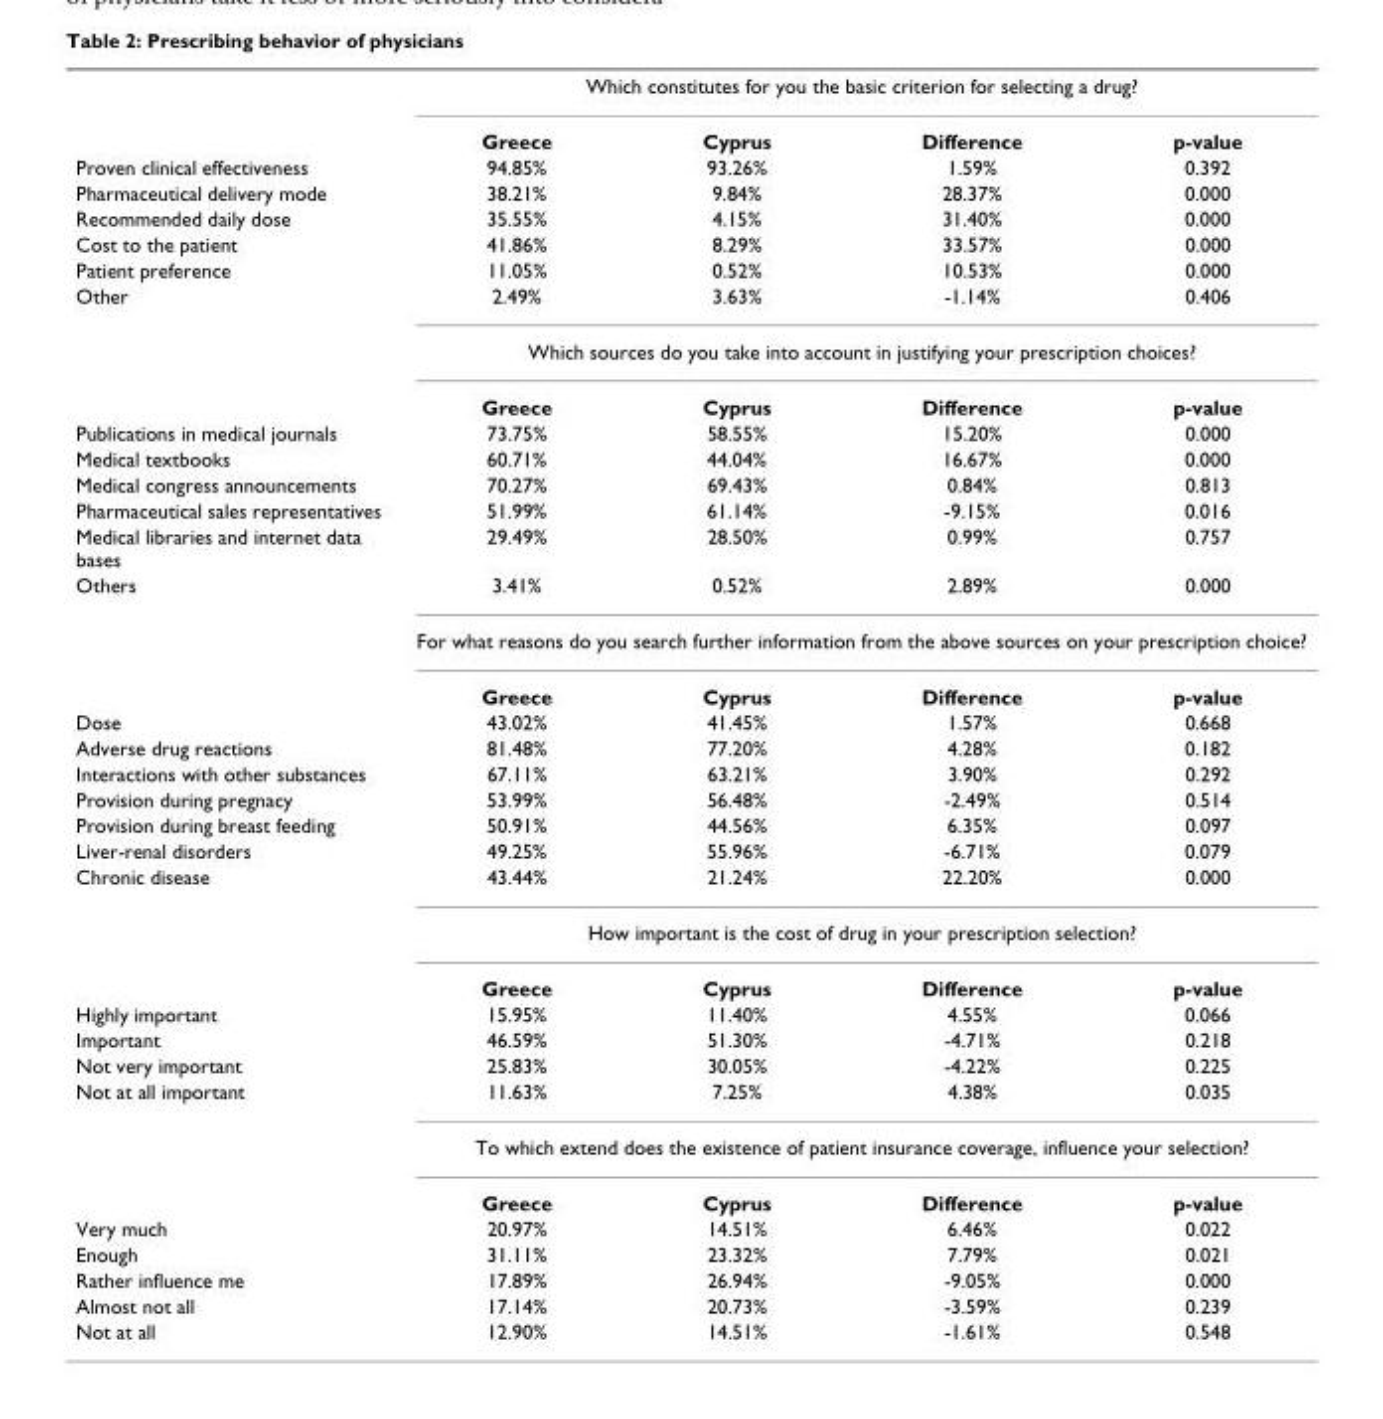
<table><thead><tr><td rowspan="2"></td><td colspan="4">Which constitutes for you the basic criterion for selecting a drug?</td></tr><tr><td>Greece</td><td>Cyprus</td><td>Difference</td><td>p-value</td></tr></thead><tbody><tr><td>Proven clinical effectiveness</td><td>94.85%</td><td>93.26%</td><td>1.59%</td><td>0.392</td></tr><tr><td>Pharmaceutical delivery mode</td><td>38.21%</td><td>9.84%</td><td>28.37%</td><td>0.000</td></tr><tr><td>Recommended daily dose</td><td>35.55%</td><td>4.15%</td><td>31.40%</td><td>0.000</td></tr><tr><td>Cost to the patient</td><td>41.86%</td><td>8.29%</td><td>33.57%</td><td>0.000</td></tr><tr><td>Patient preference</td><td>11.05%</td><td>0.52%</td><td>10.53%</td><td>0.000</td></tr><tr><td rowspan="3">Other</td><td>2.49%</td><td>3.63%</td><td>-1.14%</td><td>0.406</td></tr><tr><td colspan="4">Which sources do you take into account in justifying your prescription choices?</td></tr><tr><td>Greece</td><td>Cyprus</td><td>Difference</td><td>p-value</td></tr><tr><td>Publications in medical journals</td><td>73.75%</td><td>58.55%</td><td>15.20%</td><td>0.000</td></tr><tr><td>Medical textbooks</td><td>60.71%</td><td>44.04%</td><td>16.67%</td><td>0.000</td></tr><tr><td>Medical congress announcements</td><td>70.27%</td><td>69.43%</td><td>0.84%</td><td>0.813</td></tr><tr><td>Pharmaceutical sales representatives</td><td>51.99%</td><td>61.14%</td><td>-9.15%</td><td>0.016</td></tr><tr><td>Medical libraries and internet data bases</td><td>29.49%</td><td>28.50%</td><td>0.99%</td><td>0.757</td></tr><tr><td rowspan="3">Others</td><td>3.41%</td><td>0.52%</td><td>2.89%</td><td>0.000</td></tr><tr><td colspan="4">For what reasons do you search further information from the above sources on your prescription choice?</td></tr><tr><td>Greece</td><td>Cyprus</td><td>Difference</td><td>p-value</td></tr><tr><td>Dose</td><td>43.02%</td><td>41.45%</td><td>1.57%</td><td>0.668</td></tr><tr><td>Adverse drug reactions</td><td>81.48%</td><td>77.20%</td><td>4.28%</td><td>0.182</td></tr><tr><td>Interactions with other substances</td><td>67.11%</td><td>63.21%</td><td>3.90%</td><td>0.292</td></tr><tr><td>Provision during pregnacy</td><td>53.99%</td><td>56.48%</td><td>-2.49%</td><td>0.514</td></tr><tr><td>Provision during breast feeding</td><td>50.91%</td><td>44.56%</td><td>6.35%</td><td>0.097</td></tr><tr><td>Liver-renal disorders</td><td>49.25%</td><td>55.96%</td><td>-6.71%</td><td>0.079</td></tr><tr><td rowspan="3">Chronic disease</td><td>43.44%</td><td>21.24%</td><td>22.20%</td><td>0.000</td></tr><tr><td colspan="4">How important is the cost of drug in your prescription selection?</td></tr><tr><td>Greece</td><td>Cyprus</td><td>Difference</td><td>p-value</td></tr><tr><td>Highly important</td><td>15.95%</td><td>11.40%</td><td>4.55%</td><td>0.066</td></tr><tr><td>Important</td><td>46.59%</td><td>51.30%</td><td>-4.71%</td><td>0.218</td></tr><tr><td>Not very important</td><td>25.83%</td><td>30.05%</td><td>-4.22%</td><td>0.225</td></tr><tr><td rowspan="3">Not at all important</td><td>11.63%</td><td>7.25%</td><td>4.38%</td><td>0.035</td></tr><tr><td colspan="4">To which extend does the existence of patient insurance coverage, influence your selection?</td></tr><tr><td>Greece</td><td>Cyprus</td><td>Difference</td><td>p-value</td></tr><tr><td>Very much</td><td>20.97%</td><td>14.51%</td><td>6.46%</td><td>0.022</td></tr><tr><td>Enough</td><td>31.11%</td><td>23.32%</td><td>7.79%</td><td>0.021</td></tr><tr><td>Rather influence me</td><td>17.89%</td><td>26.94%</td><td>-9.05%</td><td>0.000</td></tr><tr><td>Almost not all</td><td>17.14%</td><td>20.73%</td><td>-3.59%</td><td>0.239</td></tr><tr><td>Not at all</td><td>12.90%</td><td>14.51%</td><td>-1.61%</td><td>0.548</td></tr></tbody></table>